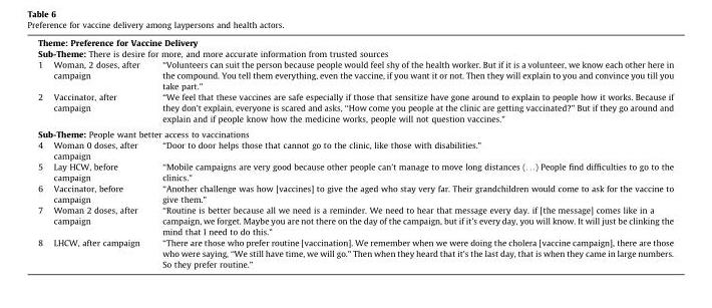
<table><tbody><tr><td colspan="3">Theme: Preference for Vaccine Delivery</td></tr><tr><td colspan="3">Sub-Theme: There is desire for more, and more accurate information from trusted sources</td></tr><tr><td>1</td><td>Woman, 2 doses, after campaign</td><td>‘‘Volunteers can suit the person because people would feel shy of the health worker. But if it is a volunteer, we know each other here in the compound. You tell them everything, even the vaccine, if you want it or not. Then they will explain to you and convince you till you take part.”</td></tr><tr><td>2</td><td>Vaccinator, after campaign</td><td>‘‘We feel that these vaccines are safe especially if those that sensitize have gone around to explain to people how it works. Because if they don’t explain, everyone is scared and asks, ‘‘How come you people at the clinic are getting vaccinated?” But if they go around and explain and if people know how the medicine works, people will not question vaccines.”</td></tr><tr><td colspan="3">Sub-Theme: People want better access to vaccinations</td></tr><tr><td>4</td><td>Woman 0 doses, after campaign</td><td>‘‘Door to door helps those that cannot go to the clinic, like those with disabilities.”</td></tr><tr><td>5</td><td>Lay HCW, before campaign</td><td>‘‘Mobile campaigns are very good because other people can’t manage to move long distances (. . .) People find difficulties to go to the clinics.”</td></tr><tr><td>6</td><td>Vaccinator, before campaign</td><td>‘‘Another challenge was how [vaccines] to give the aged who stay very far. Their grandchildren would come to ask for the vaccine to give them.”</td></tr><tr><td>7</td><td>Woman 2 doses, after campaign</td><td>‘‘Routine is better because all we need is a reminder. We need to hear that message every day. if [the message] comes like in a campaign, we forget. Maybe you are not there on the day of the campaign, but if it’s every day, you will know. It will just be clinking the mind that I need to do this.”</td></tr><tr><td>8</td><td>LHCW, after campaign</td><td>‘‘There are those who prefer routine [vaccination]. We remember when we were doing the cholera [vaccine campaign], there are those who were saying, ‘‘We still have time, we will go.” Then when they heard that it’s the last day, that is when they came in large numbers. So they prefer routine.”</td></tr></tbody></table>